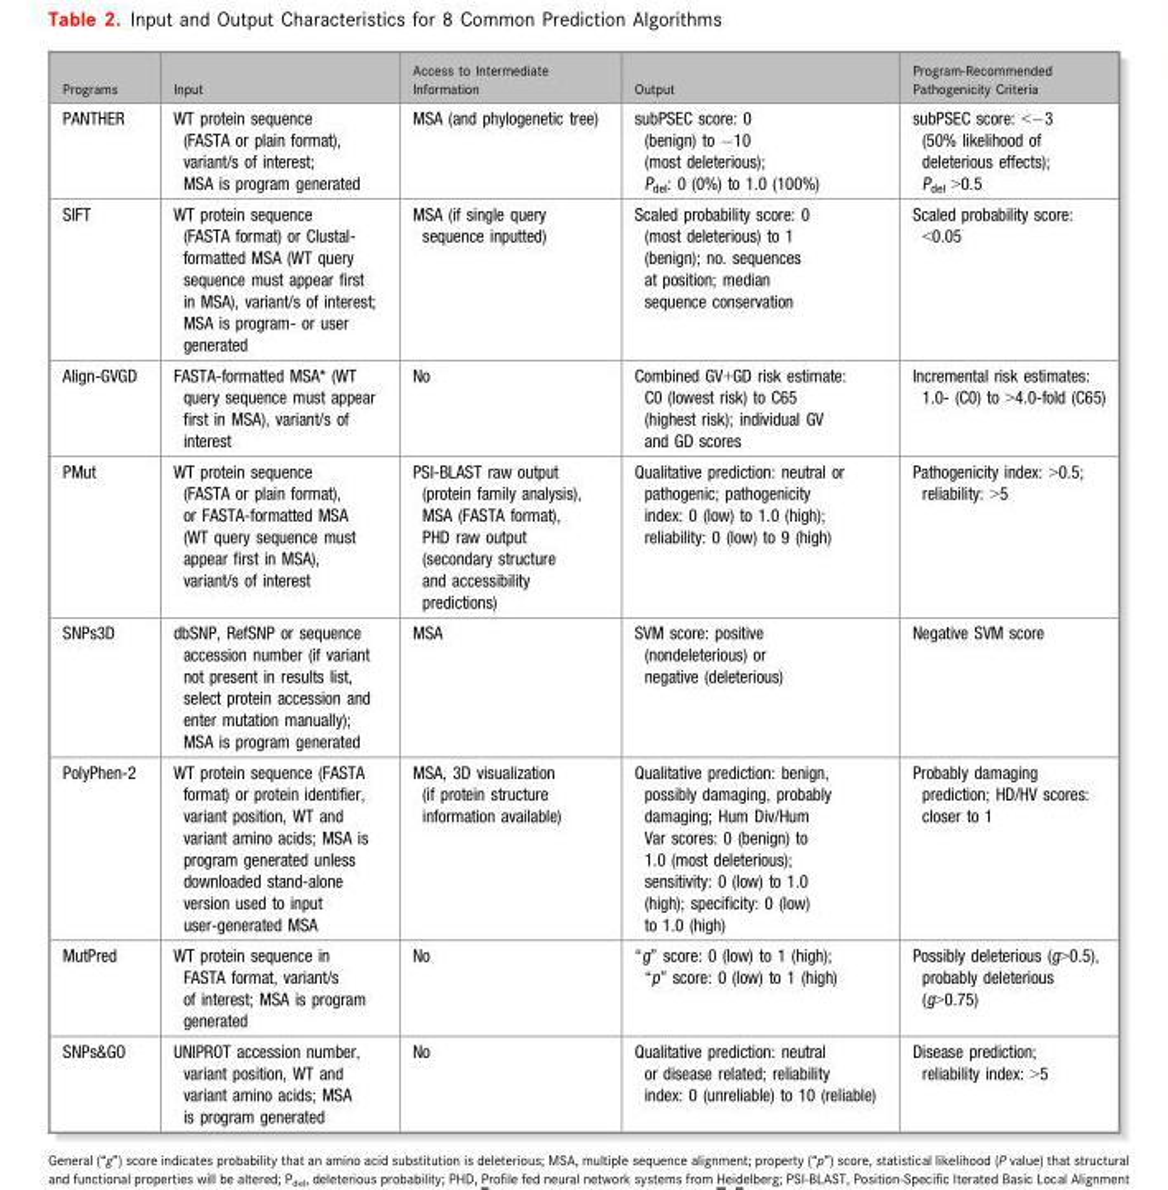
<table><thead><tr><td>Programs</td><td>Input</td><td>Access to Intermediate Information</td><td>Output</td><td>Program-Recommended Pathogenicity Criteria</td></tr></thead><tbody><tr><td>PANTHER</td><td>WT protein sequence (FASTA or plain format), variant/s of interest; MSA is program generated</td><td>MSA (and phylogenetic tree)</td><td>subPSEC score: 0 (benign) to −10 (most deleterious); P<sub>del</sub>: 0 (0%) to 1.0 (100%)</td><td>subPSEC score: &lt;−3 (50% likelihood of deleterious effects); P<sub>del</sub> &gt;0.5</td></tr><tr><td>SIFT</td><td>WT protein sequence (FASTA format) or Clustal- formatted MSA (WT query sequence must appear first in MSA), variant/s of interest; MSA is program- or user generated</td><td>MSA (if single query sequence inputted)</td><td>Scaled probability score: 0 (most deleterious) to 1 (benign); no. sequences at position; median sequence conservation</td><td>Scaled probability score: &lt;0.05</td></tr><tr><td>Align-GVGD</td><td>FASTA-formatted MSA* (WT query sequence must appear first in MSA), variant/s of interest</td><td>No</td><td>Combined GV+GD risk estimate: C0 (lowest risk) to C65 (highest risk); individual GV and GD scores</td><td>Incremental risk estimates: 1.0- (C0) to &gt;4.0-fold (C65)</td></tr><tr><td>PMut</td><td>WT protein sequence (FASTA or plain format), or FASTA-formatted MSA (WT query sequence must appear first in MSA), variant/s of interest</td><td>PSI-BLAST raw output (protein family analysis), MSA (FASTA format), PHD raw output (secondary structure and accessibility predictions)</td><td>Qualitative prediction: neutral or pathogenic; pathogenicity index: 0 (low) to 1.0 (high); reliability: 0 (low) to 9 (high)</td><td>Pathogenicity index: &gt;0.5; reliability: &gt;5</td></tr><tr><td>SNPs3D</td><td>dbSNP, RefSNP or sequence accession number (if variant not present in results list, select protein accession and enter mutation manually); MSA is program generated</td><td>MSA</td><td>SVM score: positive (nondeleterious) or negative (deleterious)</td><td>Negative SVM score</td></tr><tr><td>PolyPhen-2</td><td>WT protein sequence (FASTA format) or protein identifier, variant position, WT and variant amino acids; MSA is program generated unless downloaded stand-alone version used to input user-generated MSA</td><td>MSA, 3D visualization (if protein structure information available)</td><td>Qualitative prediction: benign, possibly damaging, probably damaging; Hum Div/Hum Var scores: 0 (benign) to 1.0 (most deleterious); sensitivity: 0 (low) to 1.0 (high); specificity: 0 (low) to 1.0 (high)</td><td>Probably damaging prediction; HD/HV scores: closer to 1</td></tr><tr><td>MutPred</td><td>WT protein sequence in FASTA format, variant/s of interest; MSA is program generated</td><td>No</td><td>“g” score: 0 (low) to 1 (high); “p” score: 0 (low) to 1 (high)</td><td>Possibly deleterious (g&gt;0.5), probably deleterious (g&gt;0.75)</td></tr><tr><td>SNPs&amp;GO</td><td>UNIPROT accession number, variant position, WT and variant amino acids; MSA is program generated</td><td>No</td><td>Qualitative prediction: neutral or disease related; reliability index: 0 (unreliable) to 10 (reliable)</td><td>Disease prediction; reliability index: &gt;5</td></tr></tbody></table>